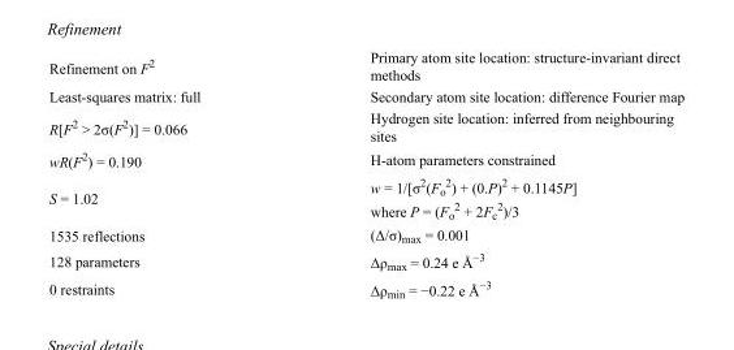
<table><tbody><tr><td>Refinement on F<sup>2</sup></td><td>Primary atom site location: structure-invariant direct methods</td></tr><tr><td>Least-squares matrix: full</td><td>Secondary atom site location: difference Fourier map</td></tr><tr><td>R[F<sup>2</sup> &gt; 2σ(F<sup>2</sup>)] = 0.066</td><td>Hydrogen site location: inferred from neighbouring sites</td></tr><tr><td>wR(F<sup>2</sup>) = 0.190</td><td>H-atom parameters constrained</td></tr><tr><td>S = 1.02</td><td>w = 1/[σ<sup>2</sup>(F<sub>o</sub> <sup>2</sup>) + (0.P)<sup>2</sup> + 0.1145P] where P = (F<sub>o</sub> <sup>2</sup> + 2F<sub>c</sub> <sup>2</sup>)/3</td></tr><tr><td>1535 reflections</td><td>(Δ/σ)<sub>max</sub> = 0.001</td></tr><tr><td>128 parameters</td><td>Δρ<sub>max</sub> = 0.24 e Å<sup>−3</sup></td></tr><tr><td>0 restraints</td><td>Δρ<sub>min</sub> = −0.22 e Å<sup>−3</sup></td></tr></tbody></table>